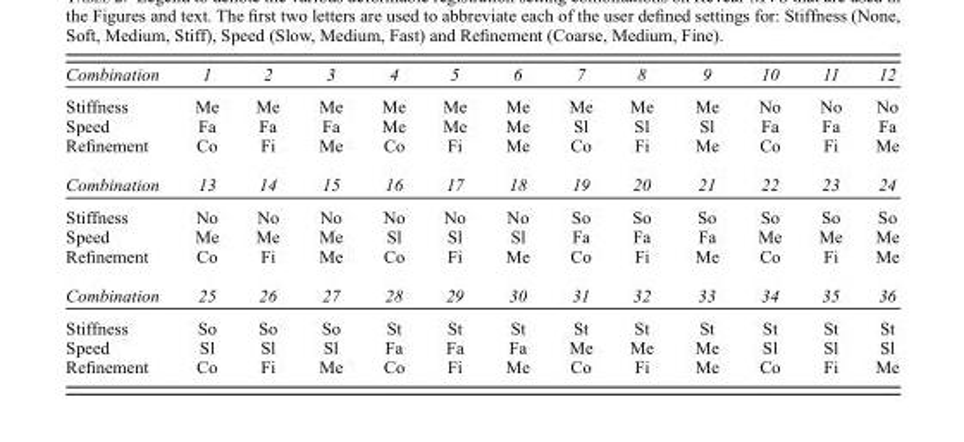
<table><thead><tr><td>Combination</td><td>1</td><td>2</td><td>3</td><td>4</td><td>5</td><td>6</td><td>7</td><td>8</td><td>9</td><td>10</td><td>11</td><td>12</td></tr></thead><tbody><tr><td>Stiffness</td><td>Me</td><td>Me</td><td>Me</td><td>Me</td><td>Me</td><td>Me</td><td>Me</td><td>Me</td><td>Me</td><td>No</td><td>No</td><td>No</td></tr><tr><td>Speed</td><td>Fa</td><td>Fa</td><td>Fa</td><td>Me</td><td>Me</td><td>Me</td><td>Sl</td><td>Sl</td><td>Sl</td><td>Fa</td><td>Fa</td><td>Fa</td></tr><tr><td>Refinement</td><td>Co</td><td>Fi</td><td>Me</td><td>Co</td><td>Fi</td><td>Me</td><td>Co</td><td>Fi</td><td>Me</td><td>Co</td><td>Fi</td><td>Me</td></tr><tr><td>Combination</td><td>13</td><td>14</td><td>15</td><td>16</td><td>17</td><td>18</td><td>19</td><td>20</td><td>21</td><td>22</td><td>23</td><td>24</td></tr><tr><td>Stiffness</td><td>No</td><td>No</td><td>No</td><td>No</td><td>No</td><td>No</td><td>So</td><td>So</td><td>So</td><td>So</td><td>So</td><td>So</td></tr><tr><td>Speed</td><td>Me</td><td>Me</td><td>Me</td><td>Sl</td><td>Sl</td><td>Sl</td><td>Fa</td><td>Fa</td><td>Fa</td><td>Me</td><td>Me</td><td>Me</td></tr><tr><td>Refinement</td><td>Co</td><td>Fi</td><td>Me</td><td>Co</td><td>Fi</td><td>Me</td><td>Co</td><td>Fi</td><td>Me</td><td>Co</td><td>Fi</td><td>Me</td></tr><tr><td>Combination</td><td>25</td><td>26</td><td>27</td><td>28</td><td>29</td><td>30</td><td>31</td><td>32</td><td>33</td><td>34</td><td>35</td><td>36</td></tr><tr><td>Stiffness</td><td>So</td><td>So</td><td>So</td><td>St</td><td>St</td><td>St</td><td>St</td><td>St</td><td>St</td><td>St</td><td>St</td><td>St</td></tr><tr><td>Speed</td><td>Sl</td><td>Sl</td><td>Sl</td><td>Fa</td><td>Fa</td><td>Fa</td><td>Me</td><td>Me</td><td>Me</td><td>Sl</td><td>Sl</td><td>Sl</td></tr><tr><td>Refinement</td><td>Co</td><td>Fi</td><td>Me</td><td>Co</td><td>Fi</td><td>Me</td><td>Co</td><td>Fi</td><td>Me</td><td>Co</td><td>Fi</td><td>Me</td></tr></tbody></table>